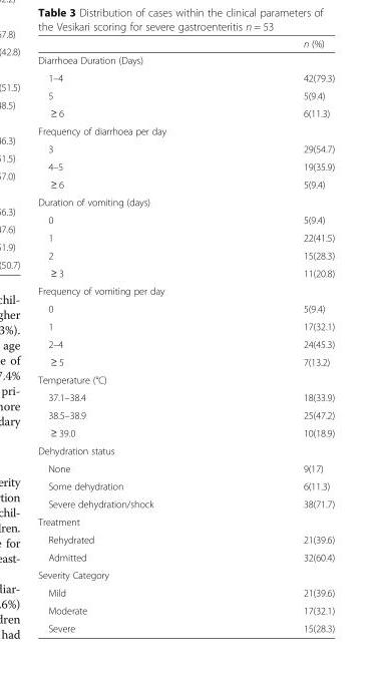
<table><thead><tr><td></td><td>n (%)</td></tr></thead><tbody><tr><td colspan="2">Diarrhoea Duration (Days)</td></tr><tr><td>1–4</td><td>42(79.3)</td></tr><tr><td>5</td><td>5(9.4)</td></tr><tr><td>≥ 6</td><td>6(11.3)</td></tr><tr><td colspan="2">Frequency of diarrhoea per day</td></tr><tr><td>3</td><td>29(54.7)</td></tr><tr><td>4–5</td><td>19(35.9)</td></tr><tr><td>≥ 6</td><td>5(9.4)</td></tr><tr><td colspan="2">Duration of vomiting (days)</td></tr><tr><td>0</td><td>5(9.4)</td></tr><tr><td>1</td><td>22(41.5)</td></tr><tr><td>2</td><td>15(28.3)</td></tr><tr><td>≥ 3</td><td>11(20.8)</td></tr><tr><td colspan="2">Frequency of vomiting per day</td></tr><tr><td>0</td><td>5(9.4)</td></tr><tr><td>1</td><td>17(32.1)</td></tr><tr><td>2–4</td><td>24(45.3)</td></tr><tr><td>≥ 5</td><td>7(13.2)</td></tr><tr><td colspan="2">Temperature (°C)</td></tr><tr><td>37.1–38.4</td><td>18(33.9)</td></tr><tr><td>38.5–38.9</td><td>25(47.2)</td></tr><tr><td>≥ 39.0</td><td>10(18.9)</td></tr><tr><td colspan="2">Dehydration status</td></tr><tr><td>None</td><td>9(17)</td></tr><tr><td>Some dehydration</td><td>6(11.3)</td></tr><tr><td>Severe dehydration/shock</td><td>38(71.7)</td></tr><tr><td colspan="2">Treatment</td></tr><tr><td>Rehydrated</td><td>21(39.6)</td></tr><tr><td>Admitted</td><td>32(60.4)</td></tr><tr><td colspan="2">Severity Category</td></tr><tr><td>Mild</td><td>21(39.6)</td></tr><tr><td>Moderate</td><td>17(32.1)</td></tr><tr><td>Severe</td><td>15(28.3)</td></tr></tbody></table>